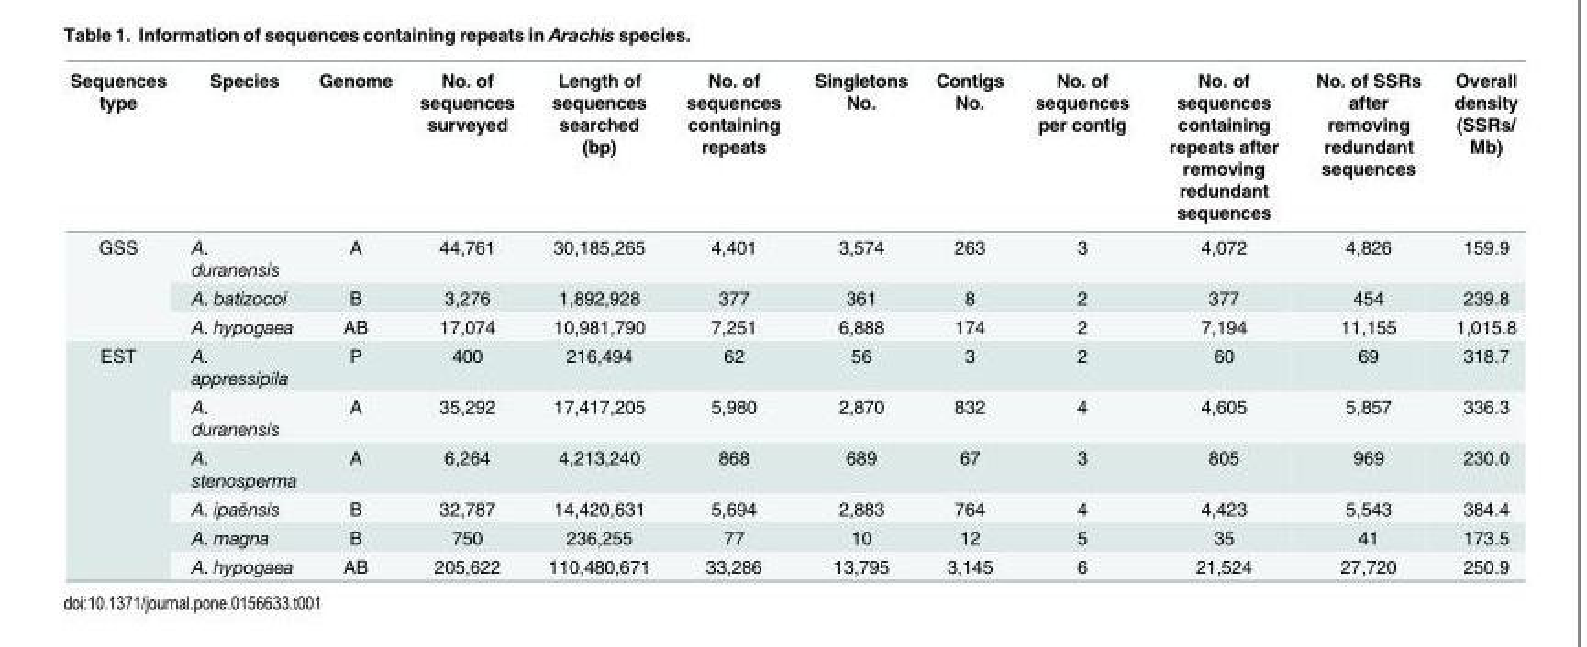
<table><thead><tr><td>Sequences type</td><td>Species</td><td>Genome</td><td>No. of sequences surveyed</td><td>Length of sequences searched (bp)</td><td>No. of sequences containing repeats</td><td>Singletons No.</td><td>Contigs No.</td><td>No. of sequences per contig</td><td>No. of sequences containing repeats after removing redundant sequences</td><td>No. of SSRs after removing redundant sequences</td><td>Overall density (SSRs/ Mb)</td></tr></thead><tbody><tr><td rowspan="3">GSS</td><td>A. duranensis</td><td>A</td><td>44,761</td><td>30,185,265</td><td>4,401</td><td>3,574</td><td>263</td><td>3</td><td>4,072</td><td>4,826</td><td>159.9</td></tr><tr><td>A. batizocoi</td><td>B</td><td>3,276</td><td>1,892,928</td><td>377</td><td>361</td><td>8</td><td>2</td><td>377</td><td>454</td><td>239.8</td></tr><tr><td>A. hypogaea</td><td>AB</td><td>17,074</td><td>10,981,790</td><td>7,251</td><td>6,888</td><td>174</td><td>2</td><td>7,194</td><td>11,155</td><td>1,015.8</td></tr><tr><td rowspan="6">EST</td><td>A. appressipila</td><td>P</td><td>400</td><td>216,494</td><td>62</td><td>56</td><td>3</td><td>2</td><td>60</td><td>69</td><td>318.7</td></tr><tr><td>A. duranensis</td><td>A</td><td>35,292</td><td>17,417,205</td><td>5,980</td><td>2,870</td><td>832</td><td>4</td><td>4,605</td><td>5,857</td><td>336.3</td></tr><tr><td>A. stenosperma</td><td>A</td><td>6,264</td><td>4,213,240</td><td>868</td><td>689</td><td>67</td><td>3</td><td>805</td><td>969</td><td>230.0</td></tr><tr><td>A. ipaënsis</td><td>B</td><td>32,787</td><td>14,420,631</td><td>5,694</td><td>2,883</td><td>764</td><td>4</td><td>4,423</td><td>5,543</td><td>384.4</td></tr><tr><td>A. magna</td><td>B</td><td>750</td><td>236,255</td><td>77</td><td>10</td><td>12</td><td>5</td><td>35</td><td>41</td><td>173.5</td></tr><tr><td>A. hypogaea</td><td>AB</td><td>205,622</td><td>110,480,671</td><td>33,286</td><td>13,795</td><td>3,145</td><td>6</td><td>21,524</td><td>27,720</td><td>250.9</td></tr></tbody></table>